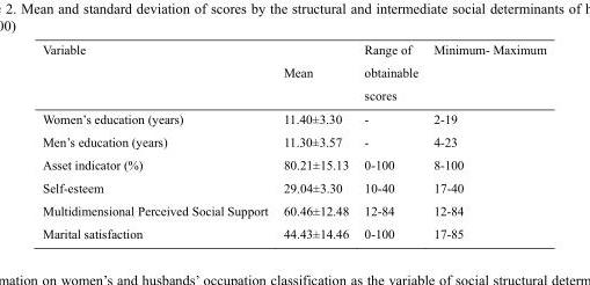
<table><thead><tr><td>Variable</td><td>Mean</td><td>Range of obtainable scores</td><td>Minimum- Maximum</td></tr></thead><tbody><tr><td>Women’s education (years)</td><td>11.40±3.30</td><td>-</td><td>2-19</td></tr><tr><td>Men’s education (years)</td><td>11.30±3.57</td><td>-</td><td>4-23</td></tr><tr><td>Asset indicator (%)</td><td>80.21±15.13</td><td>0-100</td><td>8-100</td></tr><tr><td>Self-esteem</td><td>29.04±3.30</td><td>10-40</td><td>17-40</td></tr><tr><td>Multidimensional Perceived Social Support</td><td>60.46±12.48</td><td>12-84</td><td>12-84</td></tr><tr><td>Marital satisfaction</td><td>44.43±14.46</td><td>0-100</td><td>17-85</td></tr></tbody></table>